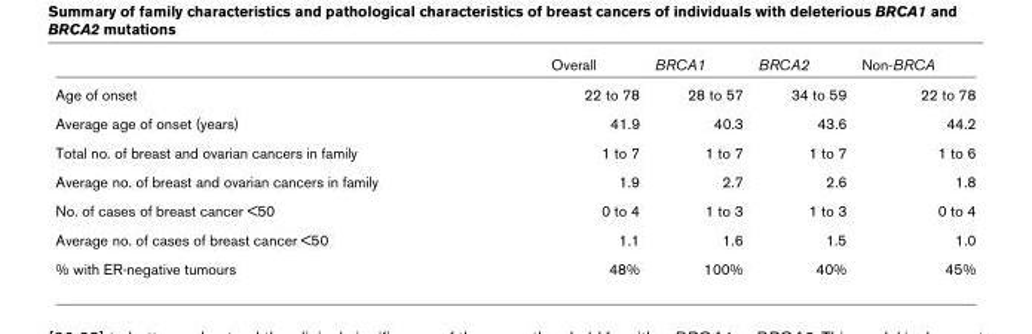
<table><thead><tr><td></td><td>Overall</td><td>BRCA1</td><td>BRCA2</td><td>Non-BRCA</td></tr></thead><tbody><tr><td>Age of onset</td><td>22 to 78</td><td>28 to 57</td><td>34 to 59</td><td>22 to 78</td></tr><tr><td>Average age of onset (years)</td><td>41.9</td><td>40.3</td><td>43.6</td><td>44.2</td></tr><tr><td>Total no. of breast and ovarian cancers in family</td><td>1 to 7</td><td>1 to 7</td><td>1 to 7</td><td>1 to 6</td></tr><tr><td>Average no. of breast and ovarian cancers in family</td><td>1.9</td><td>2.7</td><td>2.6</td><td>1.8</td></tr><tr><td>No. of cases of breast cancer &lt;50</td><td>0 to 4</td><td>1 to 3</td><td>1 to 3</td><td>0 to 4</td></tr><tr><td>Average no. of cases of breast cancer &lt;50</td><td>1.1</td><td>1.6</td><td>1.5</td><td>1.0</td></tr><tr><td>% with ER-negative tumours</td><td>48%</td><td>100%</td><td>40%</td><td>45%</td></tr></tbody></table>